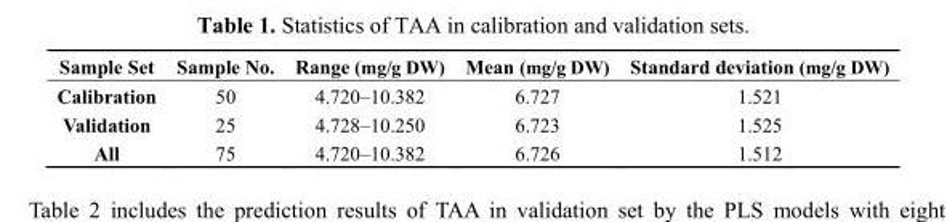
<table><thead><tr><td>Sample Set</td><td>Sample No.</td><td>Range (mg/g DW)</td><td>Mean (mg/g DW)</td><td>Standard deviation (mg/g DW)</td></tr></thead><tbody><tr><td>Calibration</td><td>50</td><td>4.720–10.382</td><td>6.727</td><td>1.521</td></tr><tr><td>Validation</td><td>25</td><td>4.728–10.250</td><td>6.723</td><td>1.525</td></tr><tr><td>All</td><td>75</td><td>4.720–10.382</td><td>6.726</td><td>1.512</td></tr></tbody></table>